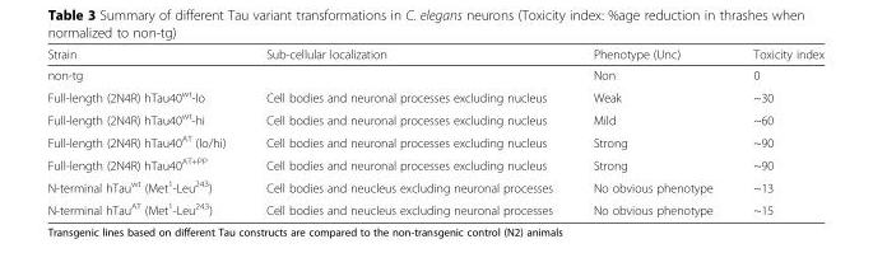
<table><thead><tr><td>Strain</td><td>Sub-cellular localization</td><td>Phenotype (Unc)</td><td>Toxicity index</td></tr></thead><tbody><tr><td>non-tg</td><td></td><td>Non</td><td>0</td></tr><tr><td>Full-length (2N4R) hTau40<sup>wt</sup>-lo</td><td>Cell bodies and neuronal processes excluding nucleus</td><td>Weak</td><td>~30</td></tr><tr><td>Full-length (2N4R) hTau40<sup>wt</sup>-hi</td><td>Cell bodies and neuronal processes excluding nucleus</td><td>Mild</td><td>~60</td></tr><tr><td>Full-length (2N4R) hTau40<sup>AT</sup> (lo/hi)</td><td>Cell bodies and neuronal processes excluding nucleus</td><td>Strong</td><td>~90</td></tr><tr><td>Full-length (2N4R) hTau40<sup>AT+PP</sup></td><td>Cell bodies and neuronal processes excluding nucleus</td><td>Strong</td><td>~90</td></tr><tr><td>N-terminal hTau<sup>wt</sup> (Met<sup>1</sup>-Leu<sup>243</sup>)</td><td>Cell bodies and neucleus excluding neuronal processes</td><td>No obvious phenotype</td><td>~13</td></tr><tr><td>N-terminal hTau<sup>AT</sup> (Met<sup>1</sup>-Leu<sup>243</sup>)</td><td>Cell bodies and neucleus excluding neuronal processes</td><td>No obvious phenotype</td><td>~15</td></tr></tbody></table>